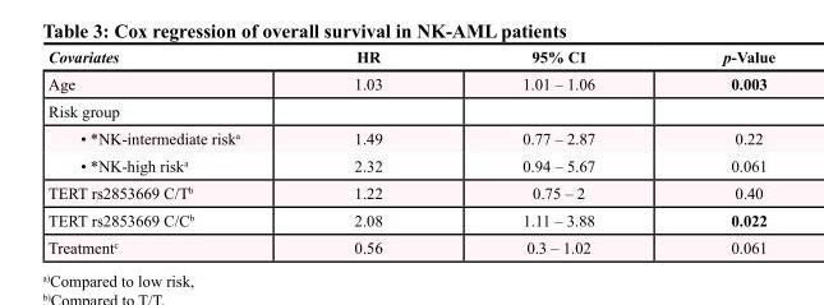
<table><thead><tr><td>Covariates</td><td>HR</td><td>95% CI</td><td>p-Value</td></tr></thead><tbody><tr><td>Age</td><td>1.03</td><td>1.01 – 1.06</td><td>0.003</td></tr><tr><td colspan="4">Risk group</td></tr><tr><td>• *NK-intermediate risk<sup>a</sup></td><td>1.49</td><td>0.77 – 2.87</td><td>0.22</td></tr><tr><td>• *NK-high risk<sup>a</sup></td><td>2.32</td><td>0.94 – 5.67</td><td>0.061</td></tr><tr><td>TERT rs2853669 C/T<sup>b</sup></td><td>1.22</td><td>0.75 – 2</td><td>0.40</td></tr><tr><td>TERT rs2853669 C/C<sup>b</sup></td><td>2.08</td><td>1.11 – 3.88</td><td>0.022</td></tr><tr><td>Treatment<sup>c</sup></td><td>0.56</td><td>0.3 – 1.02</td><td>0.061</td></tr></tbody></table>